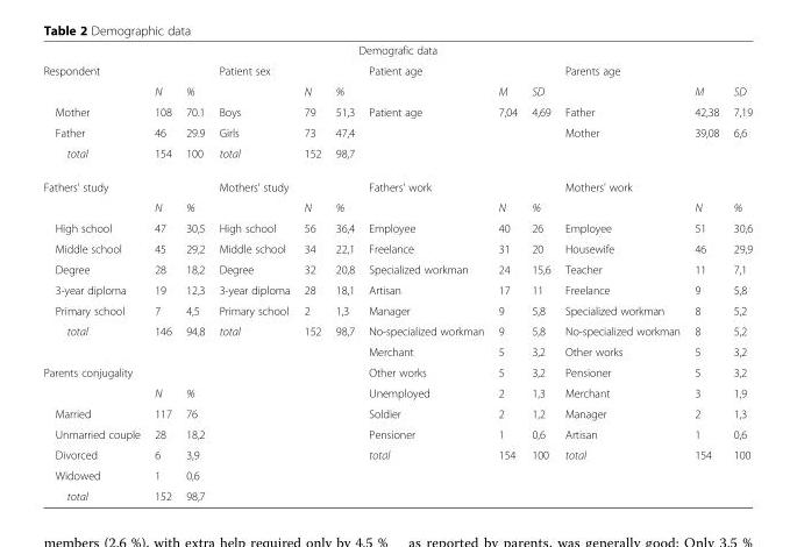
<table><tbody><tr><td colspan="12">Demografic data</td></tr><tr><td colspan="3">Respondent</td><td colspan="3">Patient sex</td><td colspan="3">Patient age</td><td colspan="3">Parents age</td></tr><tr><td></td><td>N</td><td>%</td><td></td><td>N</td><td>%</td><td></td><td>M</td><td>SD</td><td></td><td>M</td><td>SD</td></tr><tr><td>Mother</td><td>108</td><td>70.1</td><td>Boys</td><td>79</td><td>51,3</td><td>Patient age</td><td>7,04</td><td>4,69</td><td>Father</td><td>42,38</td><td>7,19</td></tr><tr><td>Father</td><td>46</td><td>29.9</td><td>Girls</td><td>73</td><td>47,4</td><td></td><td></td><td></td><td>Mother</td><td>39,08</td><td>6,6</td></tr><tr><td>total</td><td>154</td><td>100</td><td>total</td><td>152</td><td>98,7</td><td></td><td></td><td></td><td></td><td></td><td></td></tr><tr><td colspan="3">Fathers&#x27; study</td><td colspan="3">Mothers&#x27; study</td><td colspan="3">Fathers&#x27; work</td><td colspan="3">Mothers&#x27; work</td></tr><tr><td></td><td>N</td><td>%</td><td></td><td>N</td><td>%</td><td></td><td>N</td><td>%</td><td></td><td>N</td><td>%</td></tr><tr><td>High school</td><td>47</td><td>30,5</td><td>High school</td><td>56</td><td>36,4</td><td>Employee</td><td>40</td><td>26</td><td>Employee</td><td>51</td><td>30,6</td></tr><tr><td>Middle school</td><td>45</td><td>29,2</td><td>Middle school</td><td>34</td><td>22,1</td><td>Freelance</td><td>31</td><td>20</td><td>Housewife</td><td>46</td><td>29,9</td></tr><tr><td>Degree</td><td>28</td><td>18,2</td><td>Degree</td><td>32</td><td>20,8</td><td>Specialized workman</td><td>24</td><td>15,6</td><td>Teacher</td><td>11</td><td>7,1</td></tr><tr><td>3-year diploma</td><td>19</td><td>12,3</td><td>3-year diploma</td><td>28</td><td>18,1</td><td>Artisan</td><td>17</td><td>11</td><td>Freelance</td><td>9</td><td>5,8</td></tr><tr><td>Primary school</td><td>7</td><td>4,5</td><td>Primary school</td><td>2</td><td>1,3</td><td>Manager</td><td>9</td><td>5,8</td><td>Specialized workman</td><td>8</td><td>5,2</td></tr><tr><td rowspan="2">total</td><td>146</td><td>94,8</td><td>total</td><td>152</td><td>98,7</td><td>No-specialized workman</td><td>9</td><td>5,8</td><td>No-specialized workman</td><td>8</td><td>5,2</td></tr><tr><td></td><td></td><td></td><td></td><td></td><td>Merchant</td><td>5</td><td>3,2</td><td>Other works</td><td>5</td><td>3,2</td></tr><tr><td colspan="3">Parents conjugality</td><td colspan="3"></td><td>Other works</td><td>5</td><td>3,2</td><td>Pensioner</td><td>5</td><td>3,2</td></tr><tr><td></td><td>N</td><td>%</td><td></td><td></td><td></td><td>Unemployed</td><td>2</td><td>1,3</td><td>Merchant</td><td>3</td><td>1,9</td></tr><tr><td>Married</td><td>117</td><td>76</td><td></td><td></td><td></td><td>Soldier</td><td>2</td><td>1,2</td><td>Manager</td><td>2</td><td>1,3</td></tr><tr><td>Unmarried couple</td><td>28</td><td>18,2</td><td></td><td></td><td></td><td>Pensioner</td><td>1</td><td>0,6</td><td>Artisan</td><td>1</td><td>0,6</td></tr><tr><td>Divorced</td><td>6</td><td>3,9</td><td></td><td></td><td></td><td>total</td><td>154</td><td>100</td><td>total</td><td>154</td><td>100</td></tr><tr><td>Widowed</td><td>1</td><td>0,6</td><td></td><td></td><td></td><td></td><td></td><td></td><td></td><td></td><td></td></tr><tr><td>total</td><td>152</td><td>98,7</td><td></td><td></td><td></td><td></td><td></td><td></td><td></td><td></td><td></td></tr></tbody></table>